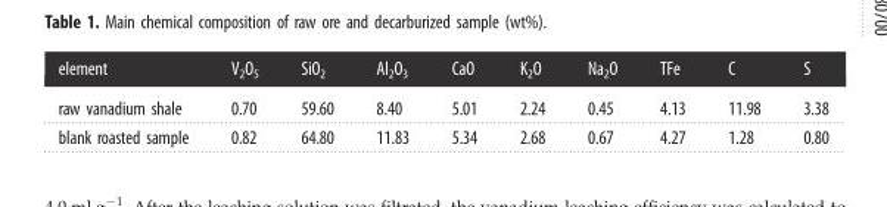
<table><thead><tr><td>element</td><td>V<sub>2</sub>O<sub>5</sub></td><td>SiO<sub>2</sub></td><td>Al<sub>2</sub>O<sub>3</sub></td><td>CaO</td><td>K<sub>2</sub>O</td><td>Na<sub>2</sub>O</td><td>TFe</td><td>C</td><td>S</td></tr></thead><tbody><tr><td>raw vanadium shale</td><td>0.70</td><td>59.60</td><td>8.40</td><td>5.01</td><td>2.24</td><td>0.45</td><td>4.13</td><td>11.98</td><td>3.38</td></tr><tr><td>blank roasted sample</td><td>0.82</td><td>64.80</td><td>11.83</td><td>5.34</td><td>2.68</td><td>0.67</td><td>4.27</td><td>1.28</td><td>0.80</td></tr></tbody></table>